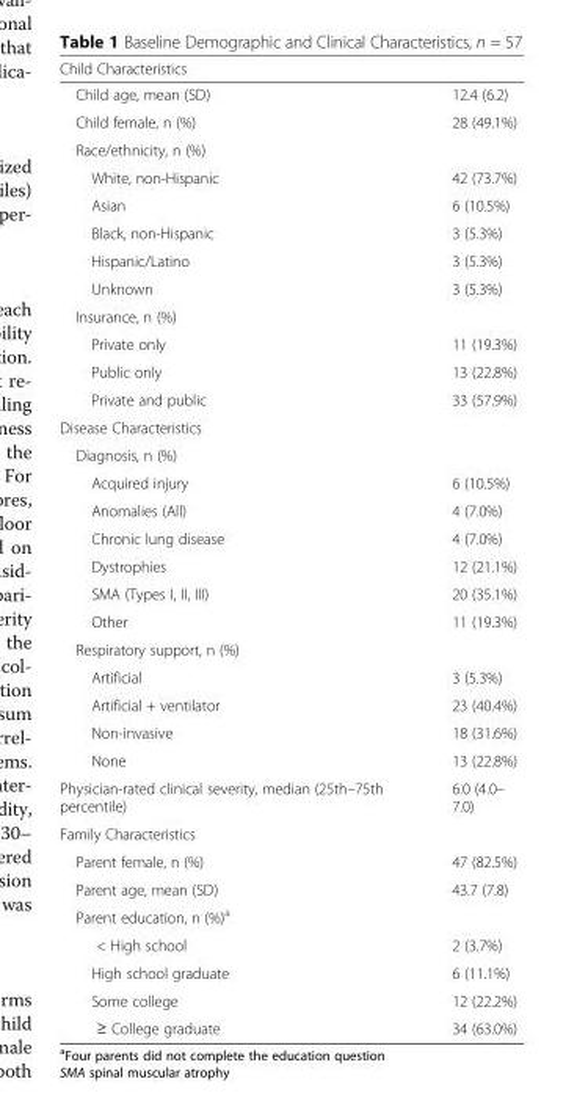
<table><thead><tr><td colspan="2">Child Characteristics</td></tr><tr><td>Child age, mean (SD)</td><td>12.4 (6.2)</td></tr></thead><tbody><tr><td>Child female, n (%)</td><td>28 (49.1%)</td></tr><tr><td colspan="2">Race/ethnicity, n (%)</td></tr><tr><td>White, non-Hispanic</td><td>42 (73.7%)</td></tr><tr><td>Asian</td><td>6 (10.5%)</td></tr><tr><td>Black, non-Hispanic</td><td>3 (5.3%)</td></tr><tr><td>Hispanic/Latino</td><td>3 (5.3%)</td></tr><tr><td>Unknown</td><td>3 (5.3%)</td></tr><tr><td colspan="2">Insurance, n (%)</td></tr><tr><td>Private only</td><td>11 (19.3%)</td></tr><tr><td>Public only</td><td>13 (22.8%)</td></tr><tr><td>Private and public</td><td>33 (57.9%)</td></tr><tr><td colspan="2">Disease Characteristics</td></tr><tr><td colspan="2">Diagnosis, n (%)</td></tr><tr><td>Acquired injury</td><td>6 (10.5%)</td></tr><tr><td>Anomalies (All)</td><td>4 (7.0%)</td></tr><tr><td>Chronic lung disease</td><td>4 (7.0%)</td></tr><tr><td>Dystrophies</td><td>12 (21.1%)</td></tr><tr><td>SMA (Types I, II, III)</td><td>20 (35.1%)</td></tr><tr><td>Other</td><td>11 (19.3%)</td></tr><tr><td colspan="2">Respiratory support, n (%)</td></tr><tr><td>Artificial</td><td>3 (5.3%)</td></tr><tr><td>Artificial + ventilator</td><td>23 (40.4%)</td></tr><tr><td>Non-invasive</td><td>18 (31.6%)</td></tr><tr><td>None</td><td>13 (22.8%)</td></tr><tr><td>Physician-rated clinical severity, median (25th–75th percentile)</td><td>6.0 (4.0– 7.0)</td></tr><tr><td colspan="2">Family Characteristics</td></tr><tr><td>Parent female, n (%)</td><td>47 (82.5%)</td></tr><tr><td>Parent age, mean (SD)</td><td>43.7 (7.8)</td></tr><tr><td colspan="2">Parent education, n (%)<sup>a</sup></td></tr><tr><td>&lt; High school</td><td>2 (3.7%)</td></tr><tr><td>High school graduate</td><td>6 (11.1%)</td></tr><tr><td>Some college</td><td>12 (22.2%)</td></tr><tr><td>≥ College graduate</td><td>34 (63.0%)</td></tr></tbody></table>